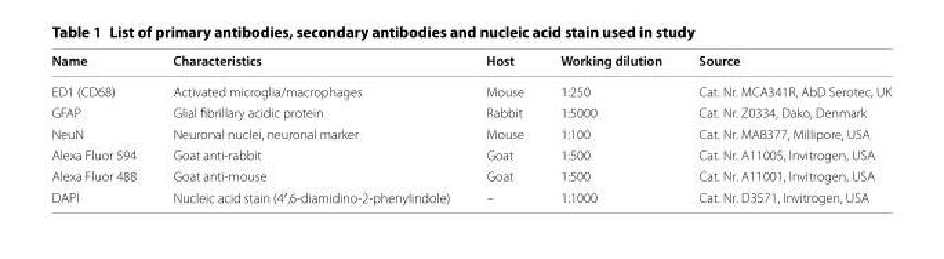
<table><thead><tr><td>Name</td><td>Characteristics</td><td>Host</td><td>Working dilution</td><td>Source</td></tr></thead><tbody><tr><td>ED1 (CD68)</td><td>Activated microglia/macrophages</td><td>Mouse</td><td>1:250</td><td>Cat. Nr. MCA341R, AbD Serotec, UK</td></tr><tr><td>GFAP</td><td>Glial fibrillary acidic protein</td><td>Rabbit</td><td>1:5000</td><td>Cat. Nr. Z0334, Dako, Denmark</td></tr><tr><td>NeuN</td><td>Neuronal nuclei, neuronal marker</td><td>Mouse</td><td>1:100</td><td>Cat. Nr. MAB377, Millipore, USA</td></tr><tr><td>Alexa Fluor 594</td><td>Goat anti-rabbit</td><td>Goat</td><td>1:500</td><td>Cat. Nr. A11005, Invitrogen, USA</td></tr><tr><td>Alexa Fluor 488</td><td>Goat anti-mouse</td><td>Goat</td><td>1:500</td><td>Cat. Nr. A11001, Invitrogen, USA</td></tr><tr><td>DAPI</td><td>Nucleic acid stain (4′,6-diamidino-2-phenylindole)</td><td>–</td><td>1:1000</td><td>Cat. Nr. D3571, Invitrogen, USA</td></tr></tbody></table>